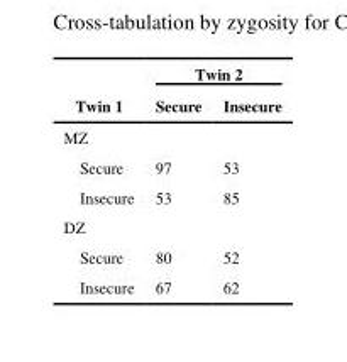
<table><thead><tr><td rowspan="2">Twin 1</td><td colspan="2">Twin 2</td></tr><tr><td>Secure</td><td>Insecure</td></tr></thead><tbody><tr><td colspan="3">MZ</td></tr><tr><td>Secure</td><td>97</td><td>53</td></tr><tr><td>Insecure</td><td>53</td><td>85</td></tr><tr><td colspan="3">DZ</td></tr><tr><td>Secure</td><td>80</td><td>52</td></tr><tr><td>Insecure</td><td>67</td><td>62</td></tr></tbody></table>